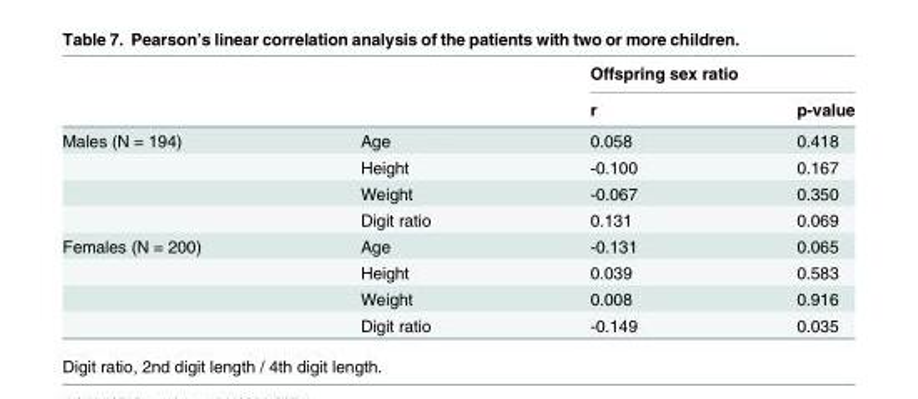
<table><thead><tr><td rowspan="2"></td><td rowspan="2"></td><td colspan="2">Offspring sex ratio</td></tr><tr><td>r</td><td>p-value</td></tr></thead><tbody><tr><td rowspan="4">Males (N = 194)</td><td>Age</td><td>0.058</td><td>0.418</td></tr><tr><td>Height</td><td>-0.100</td><td>0.167</td></tr><tr><td>Weight</td><td>-0.067</td><td>0.350</td></tr><tr><td>Digit ratio</td><td>0.131</td><td>0.069</td></tr><tr><td rowspan="4">Females (N = 200)</td><td>Age</td><td>-0.131</td><td>0.065</td></tr><tr><td>Height</td><td>0.039</td><td>0.583</td></tr><tr><td>Weight</td><td>0.008</td><td>0.916</td></tr><tr><td>Digit ratio</td><td>-0.149</td><td>0.035</td></tr></tbody></table>